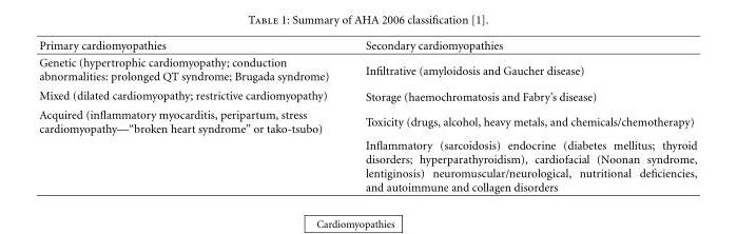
<table><thead><tr><td>Primary cardiomyopathies</td><td>Secondary cardiomyopathies</td></tr></thead><tbody><tr><td>Genetic (hypertrophic cardiomyopathy; conduction abnormalities: prolonged QT syndrome; Brugada syndrome)</td><td>Infiltrative (amyloidosis and Gaucher disease)</td></tr><tr><td>Mixed (dilated cardiomyopathy; restrictive cardiomyopathy)</td><td>Storage (haemochromatosis and Fabry’s disease)</td></tr><tr><td rowspan="2">Acquired (inflammatory myocarditis, peripartum, stress cardiomyopathy—“broken heart syndrome” or tako-tsubo)</td><td>Toxicity (drugs, alcohol, heavy metals, and chemicals/chemotherapy)</td></tr><tr><td>Inflammatory (sarcoidosis) endocrine (diabetes mellitus; thyroid disorders; hyperparathyroidism), cardiofacial (Noonan syndrome, lentiginosis) neuromuscular/neurological, nutritional deficiencies, and autoimmune and collagen disorders</td></tr></tbody></table>